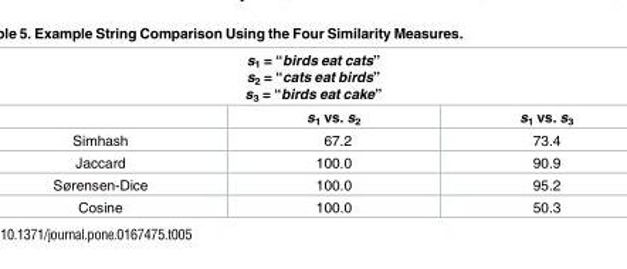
<table><thead><tr><td colspan="3">s<sub>1</sub> = “birds eat cats” s<sub>2</sub> = “cats eat birds” s<sub>3</sub> = “birds eat cake”</td></tr><tr><td></td><td>s<sub>1</sub> vs. s<sub>2</sub></td><td>s<sub>1</sub> vs. s<sub>3</sub></td></tr></thead><tbody><tr><td>Simhash</td><td>67.2</td><td>73.4</td></tr><tr><td>Jaccard</td><td>100.0</td><td>90.9</td></tr><tr><td>Sørensen-Dice</td><td>100.0</td><td>95.2</td></tr><tr><td>Cosine</td><td>100.0</td><td>50.3</td></tr></tbody></table>